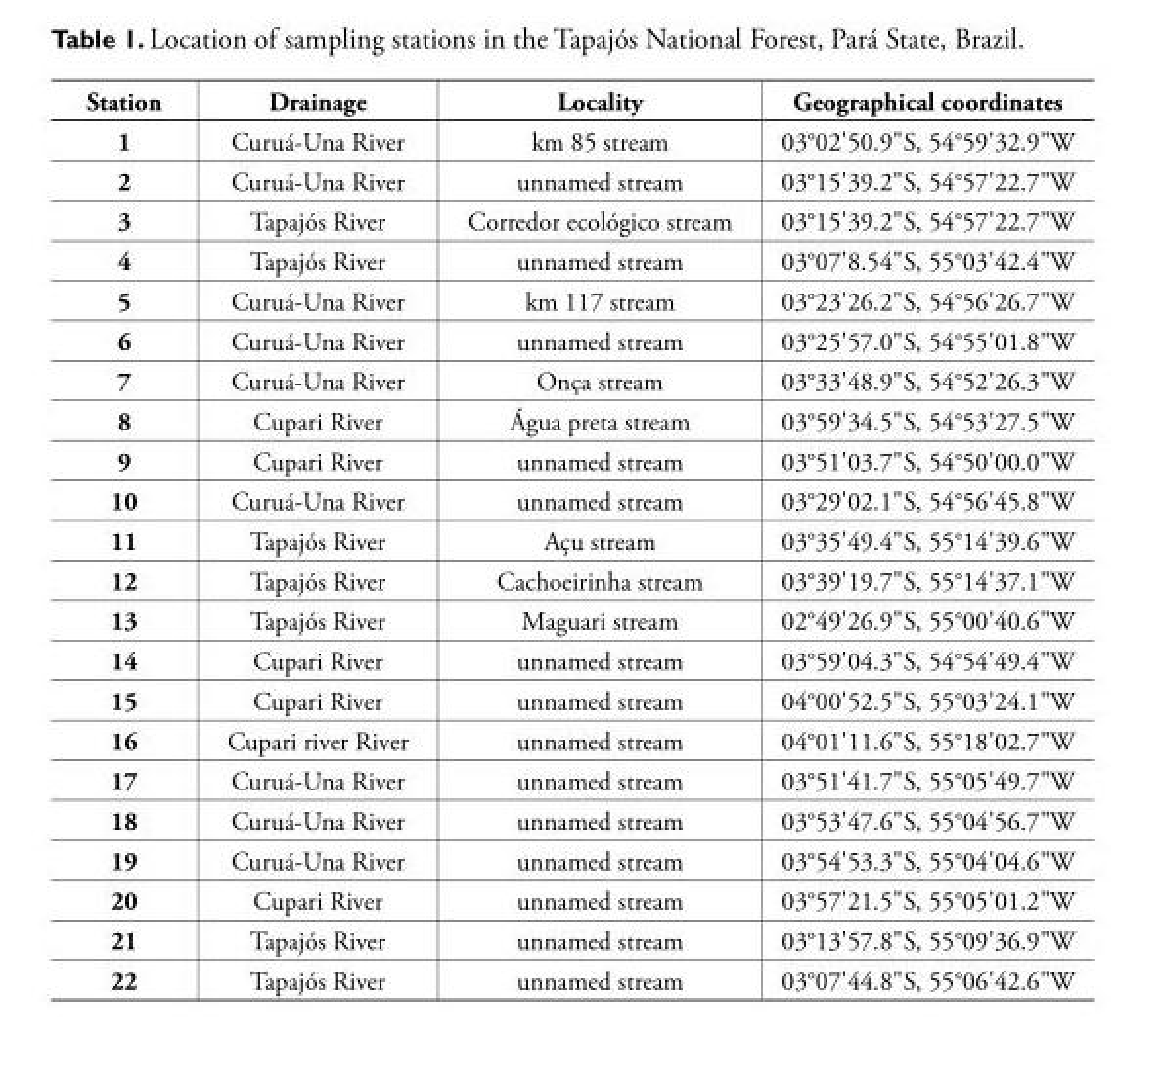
<table><thead><tr><td>Station</td><td>Drainage</td><td>Locality</td><td>Geographical coordinates</td></tr></thead><tbody><tr><td>1</td><td>Curuá-Una River</td><td>km 85 stream</td><td>03°02&#x27;50.9&quot;S, 54°59&#x27;32.9&quot;W</td></tr><tr><td>2</td><td>Curuá-Una River</td><td>unnamed stream</td><td>03°15&#x27;39.2&quot;S, 54°57&#x27;22.7&quot;W</td></tr><tr><td>3</td><td>Tapajós River</td><td>Corredor ecológico stream</td><td>03°15&#x27;39.2&quot;S, 54°57&#x27;22.7&quot;W</td></tr><tr><td>4</td><td>Tapajós River</td><td>unnamed stream</td><td>03°07&#x27;8.54&quot;S, 55°03&#x27;42.4&quot;W</td></tr><tr><td>5</td><td>Curuá-Una River</td><td>km 117 stream</td><td>03°23&#x27;26.2&quot;S, 54°56&#x27;26.7&quot;W</td></tr><tr><td>6</td><td>Curuá-Una River</td><td>unnamed stream</td><td>03°25&#x27;57.0&quot;S, 54°55&#x27;01.8&quot;W</td></tr><tr><td>7</td><td>Curuá-Una River</td><td>Onça stream</td><td>03°33&#x27;48.9&quot;S, 54°52&#x27;26.3&quot;W</td></tr><tr><td>8</td><td>Cupari River</td><td>Água preta stream</td><td>03°59&#x27;34.5&quot;S, 54°53&#x27;27.5&quot;W</td></tr><tr><td>9</td><td>Cupari River</td><td>unnamed stream</td><td>03°51&#x27;03.7&quot;S, 54°50&#x27;00.0&quot;W</td></tr><tr><td>10</td><td>Curuá-Una River</td><td>unnamed stream</td><td>03°29&#x27;02.1&quot;S, 54°56&#x27;45.8&quot;W</td></tr><tr><td>11</td><td>Tapajós River</td><td>Açu stream</td><td>03°35&#x27;49.4&quot;S, 55°14&#x27;39.6&quot;W</td></tr><tr><td>12</td><td>Tapajós River</td><td>Cachoeirinha stream</td><td>03°39&#x27;19.7&quot;S, 55°14&#x27;37.1&quot;W</td></tr><tr><td>13</td><td>Tapajós River</td><td>Maguari stream</td><td>02°49&#x27;26.9&quot;S, 55°00&#x27;40.6&quot;W</td></tr><tr><td>14</td><td>Cupari River</td><td>unnamed stream</td><td>03°59&#x27;04.3&quot;S, 54°54&#x27;49.4&quot;W</td></tr><tr><td>15</td><td>Cupari River</td><td>unnamed stream</td><td>04°00&#x27;52.5&quot;S, 55°03&#x27;24.1&quot;W</td></tr><tr><td>16</td><td>Cupari river River</td><td>unnamed stream</td><td>04°01&#x27;11.6&quot;S, 55°18&#x27;02.7&quot;W</td></tr><tr><td>17</td><td>Curuá-Una River</td><td>unnamed stream</td><td>03°51&#x27;41.7&quot;S, 55°05&#x27;49.7&quot;W</td></tr><tr><td>18</td><td>Curuá-Una River</td><td>unnamed stream</td><td>03°53&#x27;47.6&quot;S, 55°04&#x27;56.7&quot;W</td></tr><tr><td>19</td><td>Curuá-Una River</td><td>unnamed stream</td><td>03°54&#x27;53.3&quot;S, 55°04&#x27;04.6&quot;W</td></tr><tr><td>20</td><td>Cupari River</td><td>unnamed stream</td><td>03°57&#x27;21.5&quot;S, 55°05&#x27;01.2&quot;W</td></tr><tr><td>21</td><td>Tapajós River</td><td>unnamed stream</td><td>03°13&#x27;57.8&quot;S, 55°09&#x27;36.9&quot;W</td></tr><tr><td>22</td><td>Tapajós River</td><td>unnamed stream</td><td>03°07&#x27;44.8&quot;S, 55°06&#x27;42.6&quot;W</td></tr></tbody></table>